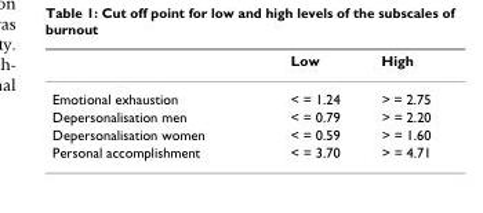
<table><thead><tr><td></td><td>Low</td><td>High</td></tr></thead><tbody><tr><td>Emotional exhaustion</td><td>&lt; = 1.24</td><td>&gt; = 2.75</td></tr><tr><td>Depersonalisation men</td><td>&lt; = 0.79</td><td>&gt; = 2.20</td></tr><tr><td>Depersonalisation women</td><td>&lt; = 0.59</td><td>&gt; = 1.60</td></tr><tr><td>Personal accomplishment</td><td>&lt; = 3.70</td><td>&gt; = 4.71</td></tr></tbody></table>